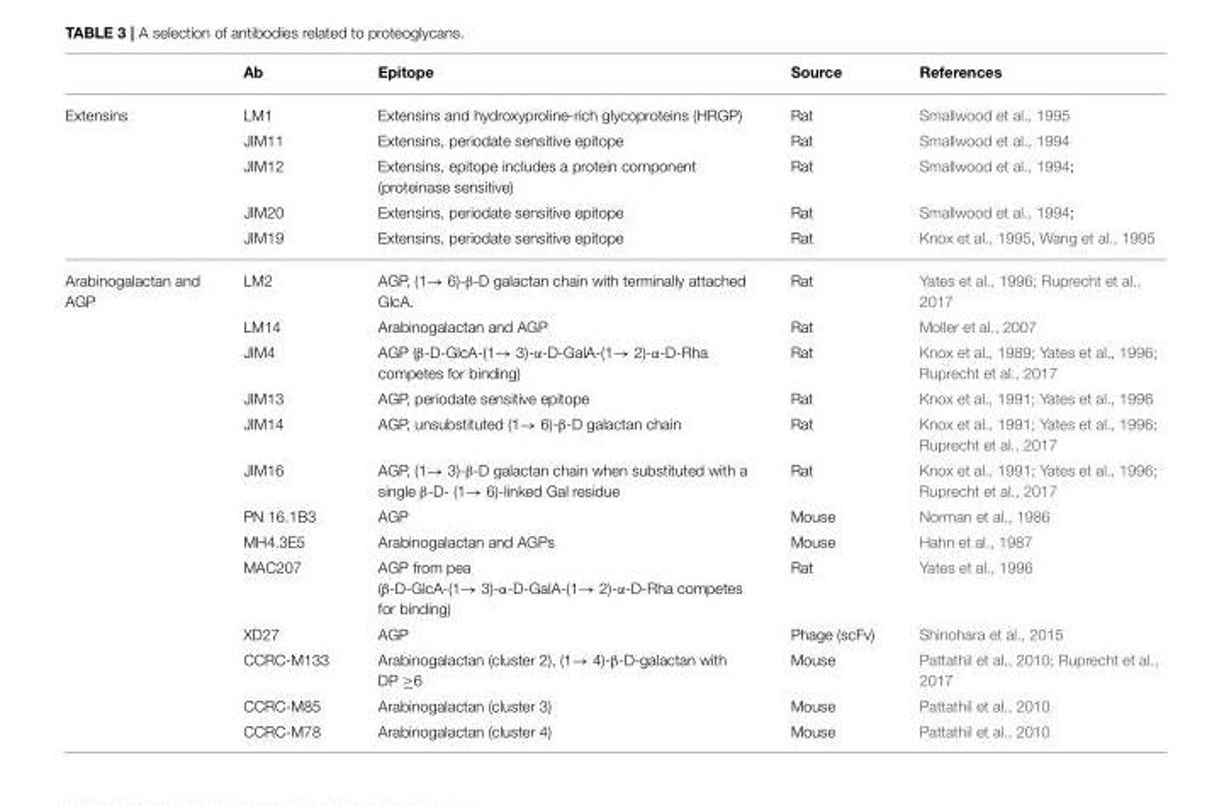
<table><thead><tr><td></td><td>Ab</td><td>Epitope</td><td>Source</td><td>References</td></tr></thead><tbody><tr><td rowspan="5">Extensins</td><td>LM1</td><td>Extensins and hydroxyproline-rich glycoproteins (HRGP)</td><td>Rat</td><td>Smallwood et al., 1995</td></tr><tr><td>JIM11</td><td>Extensins, periodate sensitive epitope</td><td>Rat</td><td>Smallwood et al., 1994</td></tr><tr><td>JIM12</td><td>Extensins, epitope includes a protein component (proteinase sensitive)</td><td>Rat</td><td>Smallwood et al., 1994;</td></tr><tr><td>JIM20</td><td>Extensins, periodate sensitive epitope</td><td>Rat</td><td>Smallwood et al., 1994;</td></tr><tr><td>JIM19</td><td>Extensins, periodate sensitive epitope</td><td>Rat</td><td>Knox et al., 1995, Wang et al., 1995</td></tr><tr><td rowspan="13">Arabinogalactan and AGP</td><td>LM2</td><td>AGP, (1→ 6)-β-D galactan chain with terminally attached GlcA.</td><td>Rat</td><td>Yates et al., 1996; Ruprecht et al., 2017</td></tr><tr><td>LM14</td><td>Arabinogalactan and AGP</td><td>Rat</td><td>Moller et al., 2007</td></tr><tr><td>JIM4</td><td>AGP (β-D-GlcA-(1→ 3)-α-D-GalA-(1→ 2)-α-D-Rha competes for binding)</td><td>Rat</td><td>Knox et al., 1989; Yates et al., 1996; Ruprecht et al., 2017</td></tr><tr><td>JIM13</td><td>AGP, periodate sensitive epitope</td><td>Rat</td><td>Knox et al., 1991; Yates et al., 1996</td></tr><tr><td>JIM14</td><td>AGP, unsubstituted (1→ 6)-β-D galactan chain</td><td>Rat</td><td>Knox et al., 1991; Yates et al., 1996; Ruprecht et al., 2017</td></tr><tr><td>JIM16</td><td>AGP, (1→ 3)-β-D galactan chain when substituted with a single β-D- (1→ 6)-linked Gal residue</td><td>Rat</td><td>Knox et al., 1991; Yates et al., 1996; Ruprecht et al., 2017</td></tr><tr><td>PN 16.1B3</td><td>AGP</td><td>Mouse</td><td>Norman et al., 1986</td></tr><tr><td>MH4.3E5</td><td>Arabinogalactan and AGPs</td><td>Mouse</td><td>Hahn et al., 1987</td></tr><tr><td>MAC207</td><td>AGP from pea (β-D-GlcA-(1→ 3)-α-D-GalA-(1→ 2)-α-D-Rha competes for binding)</td><td>Rat</td><td>Yates et al., 1996</td></tr><tr><td>XD27</td><td>AGP</td><td>Phage (scFv)</td><td>Shinohara et al., 2015</td></tr><tr><td>CCRC-M133</td><td>Arabinogalactan (cluster 2), (1→ 4)-β-D-galactan with DP ≥6</td><td>Mouse</td><td>Pattathil et al., 2010; Ruprecht et al., 2017</td></tr><tr><td>CCRC-M85</td><td>Arabinogalactan (cluster 3)</td><td>Mouse</td><td>Pattathil et al., 2010</td></tr><tr><td>CCRC-M78</td><td>Arabinogalactan (cluster 4)</td><td>Mouse</td><td>Pattathil et al., 2010</td></tr></tbody></table>